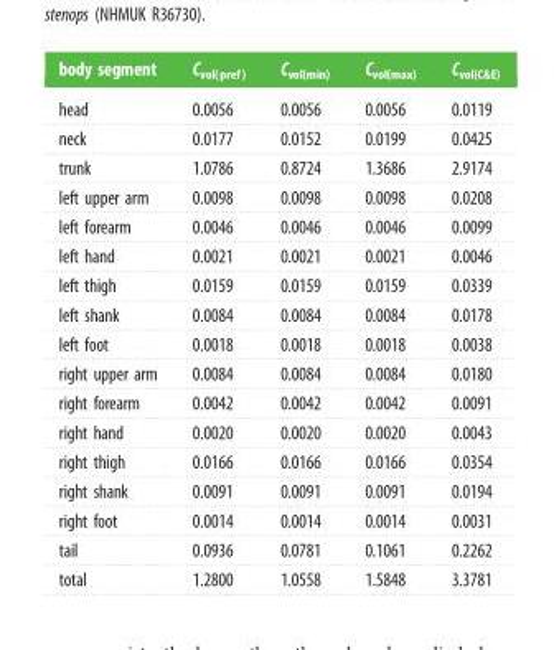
<table><thead><tr><td>body segment</td><td>C<sub>vol(pref)</sub></td><td>C<sub>vol(min)</sub></td><td>C<sub>vol(max)</sub></td><td>C<sub>vol(C&amp;E)</sub></td></tr></thead><tbody><tr><td>head</td><td>0.0056</td><td>0.0056</td><td>0.0056</td><td>0.0119</td></tr><tr><td>neck</td><td>0.0177</td><td>0.0152</td><td>0.0199</td><td>0.0425</td></tr><tr><td>trunk</td><td>1.0786</td><td>0.8724</td><td>1.3686</td><td>2.9174</td></tr><tr><td>left upper arm</td><td>0.0098</td><td>0.0098</td><td>0.0098</td><td>0.0208</td></tr><tr><td>left forearm</td><td>0.0046</td><td>0.0046</td><td>0.0046</td><td>0.0099</td></tr><tr><td>left hand</td><td>0.0021</td><td>0.0021</td><td>0.0021</td><td>0.0046</td></tr><tr><td>left thigh</td><td>0.0159</td><td>0.0159</td><td>0.0159</td><td>0.0339</td></tr><tr><td>left shank</td><td>0.0084</td><td>0.0084</td><td>0.0084</td><td>0.0178</td></tr><tr><td>left foot</td><td>0.0018</td><td>0.0018</td><td>0.0018</td><td>0.0038</td></tr><tr><td>right upper arm</td><td>0.0084</td><td>0.0084</td><td>0.0084</td><td>0.0180</td></tr><tr><td>right forearm</td><td>0.0042</td><td>0.0042</td><td>0.0042</td><td>0.0091</td></tr><tr><td>right hand</td><td>0.0020</td><td>0.0020</td><td>0.0020</td><td>0.0043</td></tr><tr><td>right thigh</td><td>0.0166</td><td>0.0166</td><td>0.0166</td><td>0.0354</td></tr><tr><td>right shank</td><td>0.0091</td><td>0.0091</td><td>0.0091</td><td>0.0194</td></tr><tr><td>right foot</td><td>0.0014</td><td>0.0014</td><td>0.0014</td><td>0.0031</td></tr><tr><td>tail</td><td>0.0936</td><td>0.0781</td><td>0.1061</td><td>0.2262</td></tr><tr><td>total</td><td>1.2800</td><td>1.0558</td><td>1.5848</td><td>3.3781</td></tr></tbody></table>